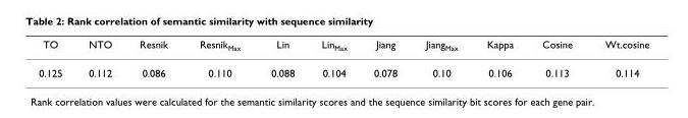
<table><thead><tr><td>TO</td><td>NTO</td><td>Resnik</td><td>Resnik<sub>Max</sub></td><td>Lin</td><td>Lin<sub>Max</sub></td><td>Jiang</td><td>Jiang<sub>Max</sub></td><td>Kappa</td><td>Cosine</td><td>Wt.cosine</td></tr></thead><tbody><tr><td>0.125</td><td>0.112</td><td>0.086</td><td>0.110</td><td>0.088</td><td>0.104</td><td>0.078</td><td>0.10</td><td>0.106</td><td>0.113</td><td>0.114</td></tr></tbody></table>